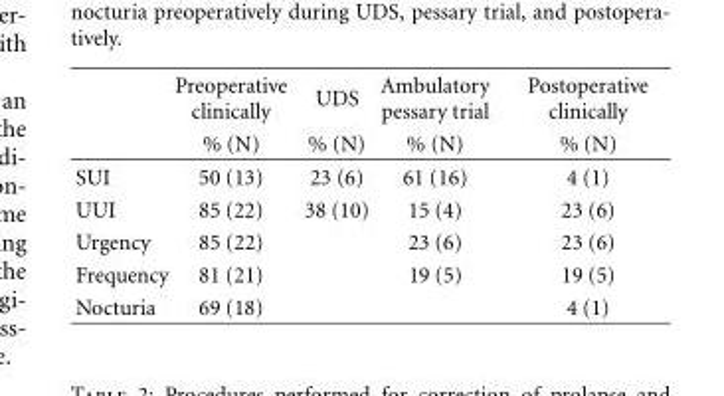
<table><thead><tr><td rowspan="2"></td><td rowspan="2">Preoperative clinically % (N)</td><td rowspan="2">UDS % (N)</td><td rowspan="2">Ambulatory pessary trial % (N)</td><td rowspan="2">Postoperative clinically % (N)</td></tr><tr></tr></thead><tbody><tr><td>SUI</td><td>50 (13)</td><td>23 (6)</td><td>61 (16)</td><td>4 (1)</td></tr><tr><td>UUI</td><td>85 (22)</td><td>38 (10)</td><td>15 (4)</td><td>23 (6)</td></tr><tr><td>Urgency</td><td>85 (22)</td><td></td><td>23 (6)</td><td>23 (6)</td></tr><tr><td>Frequency</td><td>81 (21)</td><td></td><td>19 (5)</td><td>19 (5)</td></tr><tr><td>Nocturia</td><td>69 (18)</td><td></td><td></td><td>4 (1)</td></tr></tbody></table>